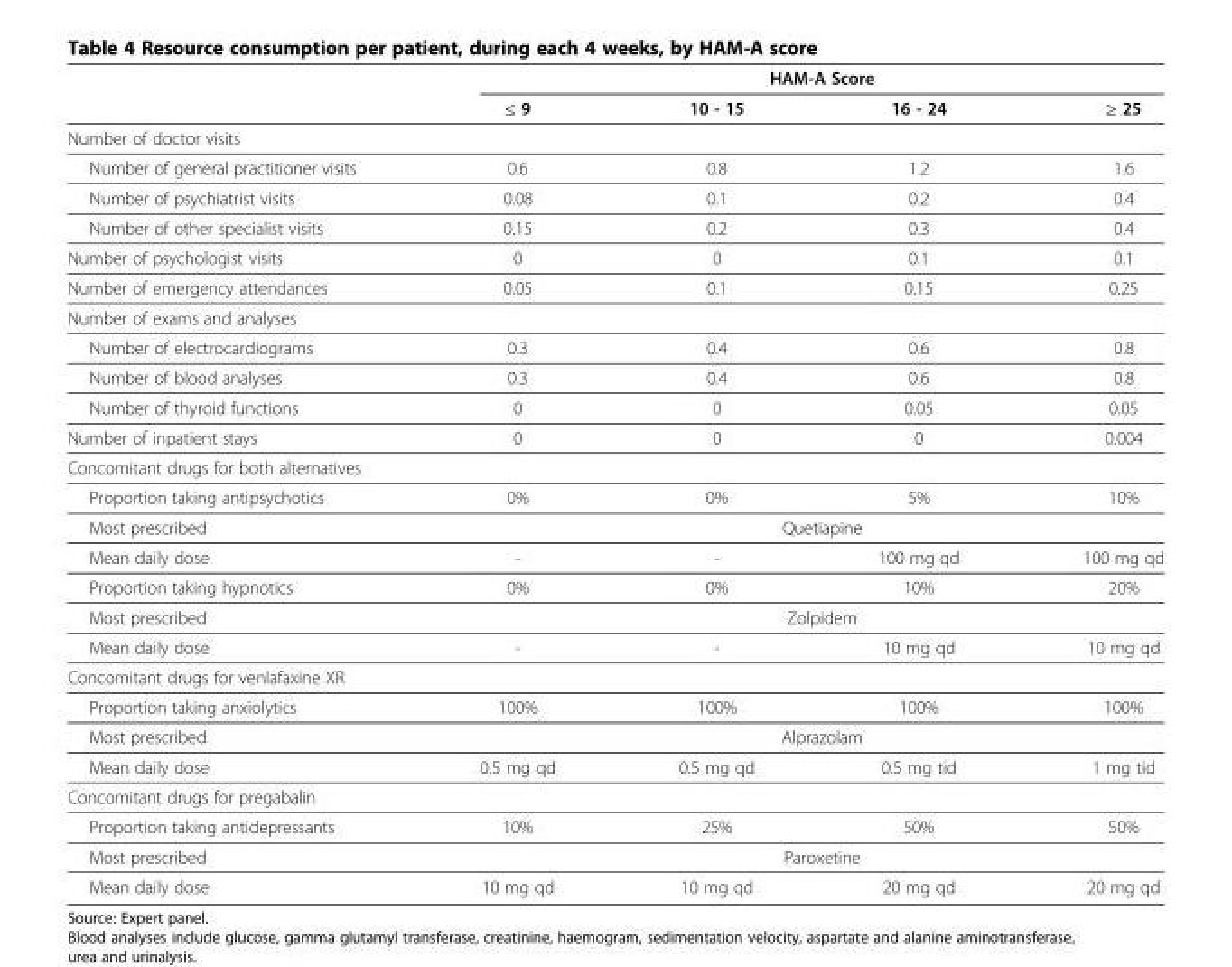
<table><thead><tr><td rowspan="2"></td><td colspan="4">HAM-A Score</td></tr><tr><td>≤ 9</td><td>10 - 15</td><td>16 - 24</td><td>≥ 25</td></tr></thead><tbody><tr><td colspan="5">Number of doctor visits</td></tr><tr><td>Number of general practitioner visits</td><td>0.6</td><td>0.8</td><td>1.2</td><td>1.6</td></tr><tr><td>Number of psychiatrist visits</td><td>0.08</td><td>0.1</td><td>0.2</td><td>0.4</td></tr><tr><td>Number of other specialist visits</td><td>0.15</td><td>0.2</td><td>0.3</td><td>0.4</td></tr><tr><td>Number of psychologist visits</td><td>0</td><td>0</td><td>0.1</td><td>0.1</td></tr><tr><td>Number of emergency attendances</td><td>0.05</td><td>0.1</td><td>0.15</td><td>0.25</td></tr><tr><td colspan="5">Number of exams and analyses</td></tr><tr><td>Number of electrocardiograms</td><td>0.3</td><td>0.4</td><td>0.6</td><td>0.8</td></tr><tr><td>Number of blood analyses</td><td>0.3</td><td>0.4</td><td>0.6</td><td>0.8</td></tr><tr><td>Number of thyroid functions</td><td>0</td><td>0</td><td>0.05</td><td>0.05</td></tr><tr><td>Number of inpatient stays</td><td>0</td><td>0</td><td>0</td><td>0.004</td></tr><tr><td colspan="5">Concomitant drugs for both alternatives</td></tr><tr><td>Proportion taking antipsychotics</td><td>0%</td><td>0%</td><td>5%</td><td>10%</td></tr><tr><td>Most prescribed</td><td colspan="4">Quetiapine</td></tr><tr><td>Mean daily dose</td><td>-</td><td>-</td><td>100 mg qd</td><td>100 mg qd</td></tr><tr><td>Proportion taking hypnotics</td><td>0%</td><td>0%</td><td>10%</td><td>20%</td></tr><tr><td>Most prescribed</td><td colspan="4">Zolpidem</td></tr><tr><td>Mean daily dose</td><td>-</td><td>-</td><td>10 mg qd</td><td>10 mg qd</td></tr><tr><td colspan="5">Concomitant drugs for venlafaxine XR</td></tr><tr><td>Proportion taking anxiolytics</td><td>100%</td><td>100%</td><td>100%</td><td>100%</td></tr><tr><td>Most prescribed</td><td colspan="4">Alprazolam</td></tr><tr><td>Mean daily dose</td><td>0.5 mg qd</td><td>0.5 mg qd</td><td>0.5 mg tid</td><td>1 mg tid</td></tr><tr><td colspan="5">Concomitant drugs for pregabalin</td></tr><tr><td>Proportion taking antidepressants</td><td>10%</td><td>25%</td><td>50%</td><td>50%</td></tr><tr><td>Most prescribed</td><td colspan="4">Paroxetine</td></tr><tr><td>Mean daily dose</td><td>10 mg qd</td><td>10 mg qd</td><td>20 mg qd</td><td>20 mg qd</td></tr></tbody></table>